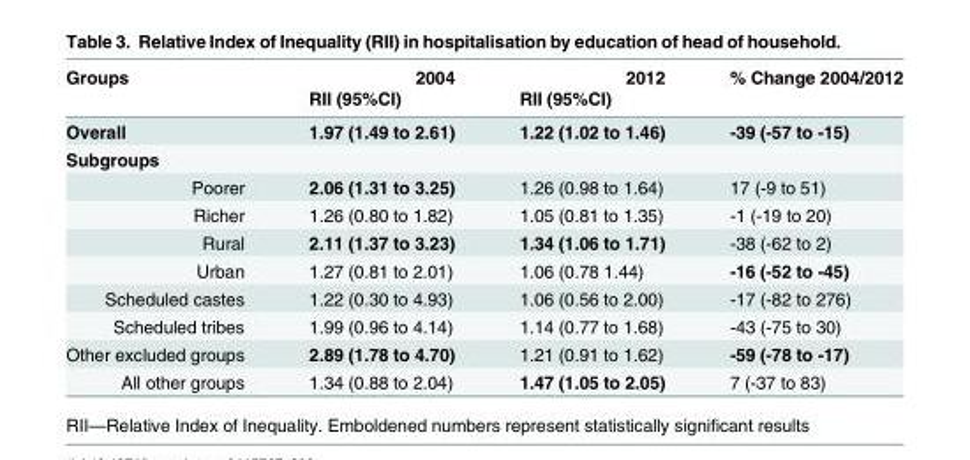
<table><thead><tr><td rowspan="2">Groups</td><td rowspan="2">2004 RII (95%CI)</td><td rowspan="2">2012 RII (95%CI)</td><td rowspan="2">% Change 2004/2012</td></tr><tr></tr></thead><tbody><tr><td>Overall</td><td>1.97 (1.49 to 2.61)</td><td>1.22 (1.02 to 1.46)</td><td>-39 (-57 to -15)</td></tr><tr><td colspan="4">Subgroups</td></tr><tr><td>Poorer</td><td>2.06 (1.31 to 3.25)</td><td>1.26 (0.98 to 1.64)</td><td>17 (-9 to 51)</td></tr><tr><td>Richer</td><td>1.26 (0.80 to 1.82)</td><td>1.05 (0.81 to 1.35)</td><td>-1 (-19 to 20)</td></tr><tr><td>Rural</td><td>2.11 (1.37 to 3.23)</td><td>1.34 (1.06 to 1.71)</td><td>-38 (-62 to 2)</td></tr><tr><td>Urban</td><td>1.27 (0.81 to 2.01)</td><td>1.06 (0.78 1.44)</td><td>-16 (-52 to -45)</td></tr><tr><td>Scheduled castes</td><td>1.22 (0.30 to 4.93)</td><td>1.06 (0.56 to 2.00)</td><td>-17 (-82 to 276)</td></tr><tr><td>Scheduled tribes</td><td>1.99 (0.96 to 4.14)</td><td>1.14 (0.77 to 1.68)</td><td>-43 (-75 to 30)</td></tr><tr><td>Other excluded groups</td><td>2.89 (1.78 to 4.70)</td><td>1.21 (0.91 to 1.62)</td><td>-59 (-78 to -17)</td></tr><tr><td>All other groups</td><td>1.34 (0.88 to 2.04)</td><td>1.47 (1.05 to 2.05)</td><td>7 (-37 to 83)</td></tr></tbody></table>